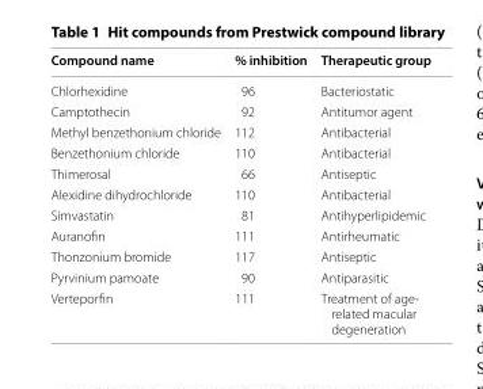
<table><thead><tr><td>Compound name</td><td>% inhibition</td><td>Therapeutic group</td></tr></thead><tbody><tr><td>Chlorhexidine</td><td>96</td><td>Bacteriostatic</td></tr><tr><td>Camptothecin</td><td>92</td><td>Antitumor agent</td></tr><tr><td>Methyl benzethonium chloride</td><td>112</td><td>Antibacterial</td></tr><tr><td>Benzethonium chloride</td><td>110</td><td>Antibacterial</td></tr><tr><td>Thimerosal</td><td>66</td><td>Antiseptic</td></tr><tr><td>Alexidine dihydrochloride</td><td>110</td><td>Antibacterial</td></tr><tr><td>Simvastatin</td><td>81</td><td>Antihyperlipidemic</td></tr><tr><td>Auranofin</td><td>111</td><td>Antirheumatic</td></tr><tr><td>Thonzonium bromide</td><td>117</td><td>Antiseptic</td></tr><tr><td>Pyrvinium pamoate</td><td>90</td><td>Antiparasitic</td></tr><tr><td>Verteporfin</td><td>111</td><td>Treatment of age- related macular degeneration</td></tr></tbody></table>